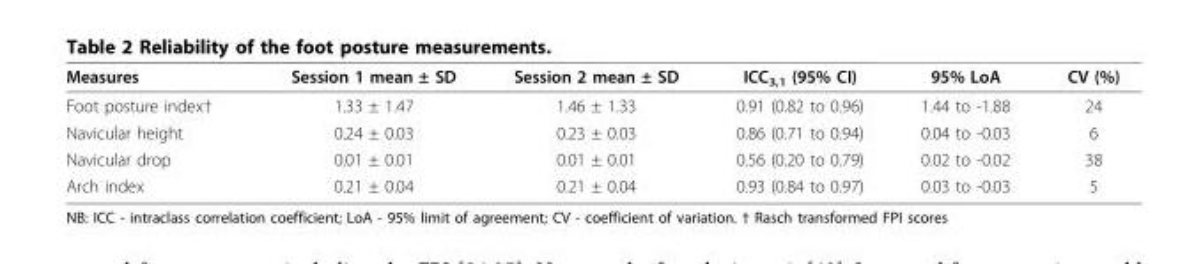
<table><thead><tr><td>Measures</td><td>Session 1 mean ± SD</td><td>Session 2 mean ± SD</td><td>ICC<sub>3,1</sub> (95% CI)</td><td>95% LoA</td><td>CV (%)</td></tr></thead><tbody><tr><td>Foot posture index†</td><td>1.33 ± 1.47</td><td>1.46 ± 1.33</td><td>0.91 (0.82 to 0.96)</td><td>1.44 to -1.88</td><td>24</td></tr><tr><td>Navicular height</td><td>0.24 ± 0.03</td><td>0.23 ± 0.03</td><td>0.86 (0.71 to 0.94)</td><td>0.04 to -0.03</td><td>6</td></tr><tr><td>Navicular drop</td><td>0.01 ± 0.01</td><td>0.01 ± 0.01</td><td>0.56 (0.20 to 0.79)</td><td>0.02 to -0.02</td><td>38</td></tr><tr><td>Arch index</td><td>0.21 ± 0.04</td><td>0.21 ± 0.04</td><td>0.93 (0.84 to 0.97)</td><td>0.03 to -0.03</td><td>5</td></tr></tbody></table>